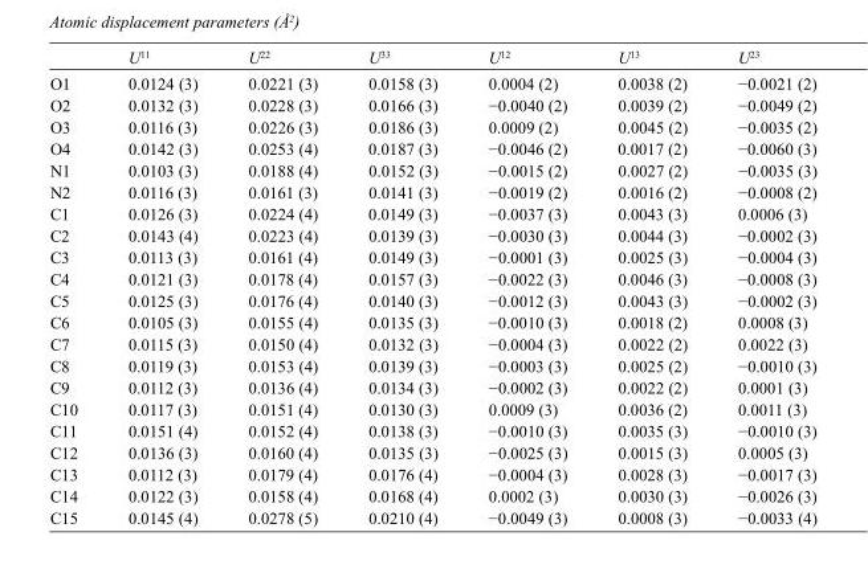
<table><thead><tr><td></td><td>U<sup>11</sup></td><td>U<sup>22</sup></td><td>U<sup>33</sup></td><td>U<sup>12</sup></td><td>U<sup>13</sup></td><td>U<sup>23</sup></td></tr></thead><tbody><tr><td>O1</td><td>0.0124 (3)</td><td>0.0221 (3)</td><td>0.0158 (3)</td><td>0.0004 (2)</td><td>0.0038 (2)</td><td>−0.0021 (2)</td></tr><tr><td>O2</td><td>0.0132 (3)</td><td>0.0228 (3)</td><td>0.0166 (3)</td><td>−0.0040 (2)</td><td>0.0039 (2)</td><td>−0.0049 (2)</td></tr><tr><td>O3</td><td>0.0116 (3)</td><td>0.0226 (3)</td><td>0.0186 (3)</td><td>0.0009 (2)</td><td>0.0045 (2)</td><td>−0.0035 (2)</td></tr><tr><td>O4</td><td>0.0142 (3)</td><td>0.0253 (4)</td><td>0.0187 (3)</td><td>−0.0046 (2)</td><td>0.0017 (2)</td><td>−0.0060 (3)</td></tr><tr><td>N1</td><td>0.0103 (3)</td><td>0.0188 (4)</td><td>0.0152 (3)</td><td>−0.0015 (2)</td><td>0.0027 (2)</td><td>−0.0035 (3)</td></tr><tr><td>N2</td><td>0.0116 (3)</td><td>0.0161 (3)</td><td>0.0141 (3)</td><td>−0.0019 (2)</td><td>0.0016 (2)</td><td>−0.0008 (2)</td></tr><tr><td>C1</td><td>0.0126 (3)</td><td>0.0224 (4)</td><td>0.0149 (3)</td><td>−0.0037 (3)</td><td>0.0043 (3)</td><td>0.0006 (3)</td></tr><tr><td>C2</td><td>0.0143 (4)</td><td>0.0223 (4)</td><td>0.0139 (3)</td><td>−0.0030 (3)</td><td>0.0044 (3)</td><td>−0.0002 (3)</td></tr><tr><td>C3</td><td>0.0113 (3)</td><td>0.0161 (4)</td><td>0.0149 (3)</td><td>−0.0001 (3)</td><td>0.0025 (3)</td><td>−0.0004 (3)</td></tr><tr><td>C4</td><td>0.0121 (3)</td><td>0.0178 (4)</td><td>0.0157 (3)</td><td>−0.0022 (3)</td><td>0.0046 (3)</td><td>−0.0008 (3)</td></tr><tr><td>C5</td><td>0.0125 (3)</td><td>0.0176 (4)</td><td>0.0140 (3)</td><td>−0.0012 (3)</td><td>0.0043 (3)</td><td>−0.0002 (3)</td></tr><tr><td>C6</td><td>0.0105 (3)</td><td>0.0155 (4)</td><td>0.0135 (3)</td><td>−0.0010 (3)</td><td>0.0018 (2)</td><td>0.0008 (3)</td></tr><tr><td>C7</td><td>0.0115 (3)</td><td>0.0150 (4)</td><td>0.0132 (3)</td><td>−0.0004 (3)</td><td>0.0022 (2)</td><td>0.0022 (3)</td></tr><tr><td>C8</td><td>0.0119 (3)</td><td>0.0153 (4)</td><td>0.0139 (3)</td><td>−0.0003 (3)</td><td>0.0025 (2)</td><td>−0.0010 (3)</td></tr><tr><td>C9</td><td>0.0112 (3)</td><td>0.0136 (4)</td><td>0.0134 (3)</td><td>−0.0002 (3)</td><td>0.0022 (2)</td><td>0.0001 (3)</td></tr><tr><td>C10</td><td>0.0117 (3)</td><td>0.0151 (4)</td><td>0.0130 (3)</td><td>0.0009 (3)</td><td>0.0036 (2)</td><td>0.0011 (3)</td></tr><tr><td>C11</td><td>0.0151 (4)</td><td>0.0152 (4)</td><td>0.0138 (3)</td><td>−0.0010 (3)</td><td>0.0035 (3)</td><td>−0.0010 (3)</td></tr><tr><td>C12</td><td>0.0136 (3)</td><td>0.0160 (4)</td><td>0.0135 (3)</td><td>−0.0025 (3)</td><td>0.0015 (3)</td><td>0.0005 (3)</td></tr><tr><td>C13</td><td>0.0112 (3)</td><td>0.0179 (4)</td><td>0.0176 (4)</td><td>−0.0004 (3)</td><td>0.0028 (3)</td><td>−0.0017 (3)</td></tr><tr><td>C14</td><td>0.0122 (3)</td><td>0.0158 (4)</td><td>0.0168 (4)</td><td>0.0002 (3)</td><td>0.0030 (3)</td><td>−0.0026 (3)</td></tr><tr><td>C15</td><td>0.0145 (4)</td><td>0.0278 (5)</td><td>0.0210 (4)</td><td>−0.0049 (3)</td><td>0.0008 (3)</td><td>−0.0033 (4)</td></tr></tbody></table>